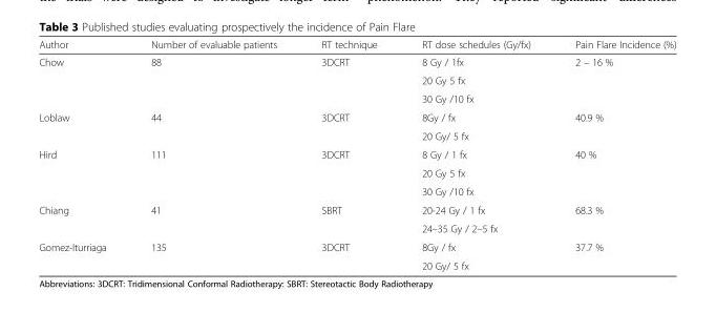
<table><thead><tr><td>Author</td><td>Number of evaluable patients</td><td>RT technique</td><td>RT dose schedules (Gy/fx)</td><td>Pain Flare Incidence (%)</td></tr></thead><tbody><tr><td rowspan="3">Chow</td><td rowspan="3">88</td><td rowspan="3">3DCRT</td><td>8 Gy / 1fx</td><td rowspan="3">2 – 16 %</td></tr><tr><td>20 Gy 5 fx</td></tr><tr><td>30 Gy /10 fx</td></tr><tr><td rowspan="2">Loblaw</td><td rowspan="2">44</td><td rowspan="2">3DCRT</td><td>8Gy / fx</td><td rowspan="2">40.9 %</td></tr><tr><td>20 Gy/ 5 fx</td></tr><tr><td rowspan="3">Hird</td><td rowspan="3">111</td><td rowspan="3">3DCRT</td><td>8 Gy / 1 fx</td><td rowspan="3">40 %</td></tr><tr><td>20 Gy 5 fx</td></tr><tr><td>30 Gy /10 fx</td></tr><tr><td rowspan="2">Chiang</td><td rowspan="2">41</td><td rowspan="2">SBRT</td><td>20-24 Gy / 1 fx</td><td rowspan="2">68.3 %</td></tr><tr><td>24–35 Gy / 2–5 fx</td></tr><tr><td rowspan="2">Gomez-Iturriaga</td><td rowspan="2">135</td><td rowspan="2">3DCRT</td><td>8Gy / fx</td><td rowspan="2">37.7 %</td></tr><tr><td>20 Gy/ 5 fx</td></tr></tbody></table>